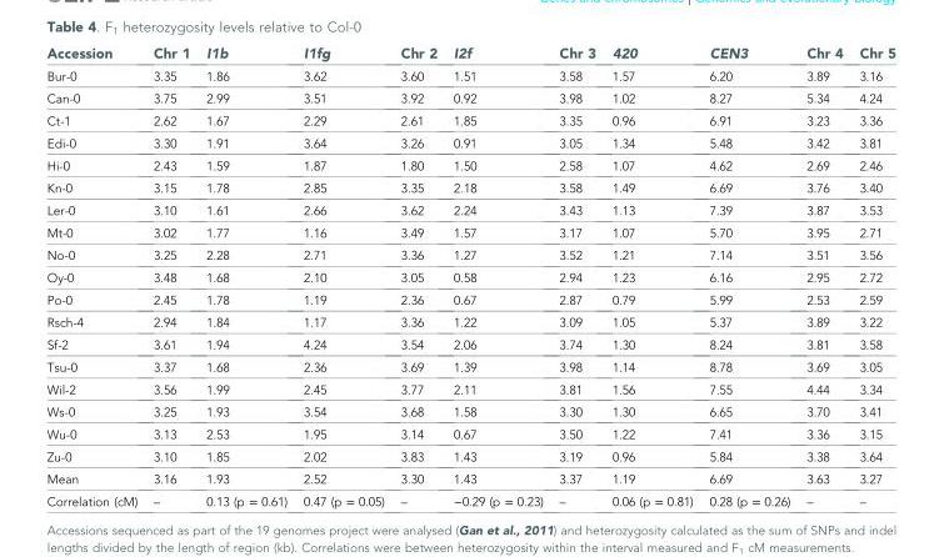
<table><thead><tr><td>Accession</td><td>Chr 1</td><td>I1b</td><td>I1fg</td><td>Chr 2</td><td>I2f</td><td>Chr 3</td><td>420</td><td>CEN3</td><td>Chr 4</td><td>Chr 5</td></tr></thead><tbody><tr><td>Bur-0</td><td>3.35</td><td>1.86</td><td>3.62</td><td>3.60</td><td>1.51</td><td>3.58</td><td>1.57</td><td>6.20</td><td>3.89</td><td>3.16</td></tr><tr><td>Can-0</td><td>3.75</td><td>2.99</td><td>3.51</td><td>3.92</td><td>0.92</td><td>3.98</td><td>1.02</td><td>8.27</td><td>5.34</td><td>4.24</td></tr><tr><td>Ct-1</td><td>2.62</td><td>1.67</td><td>2.29</td><td>2.61</td><td>1.85</td><td>3.35</td><td>0.96</td><td>6.91</td><td>3.23</td><td>3.36</td></tr><tr><td>Edi-0</td><td>3.30</td><td>1.91</td><td>3.64</td><td>3.26</td><td>0.91</td><td>3.05</td><td>1.34</td><td>5.48</td><td>3.42</td><td>3.81</td></tr><tr><td>Hi-0</td><td>2.43</td><td>1.59</td><td>1.87</td><td>1.80</td><td>1.50</td><td>2.58</td><td>1.07</td><td>4.62</td><td>2.69</td><td>2.46</td></tr><tr><td>Kn-0</td><td>3.15</td><td>1.78</td><td>2.85</td><td>3.35</td><td>2.18</td><td>3.58</td><td>1.49</td><td>6.69</td><td>3.76</td><td>3.40</td></tr><tr><td>Ler-0</td><td>3.10</td><td>1.61</td><td>2.66</td><td>3.62</td><td>2.24</td><td>3.43</td><td>1.13</td><td>7.39</td><td>3.87</td><td>3.53</td></tr><tr><td>Mt-0</td><td>3.02</td><td>1.77</td><td>1.16</td><td>3.49</td><td>1.57</td><td>3.17</td><td>1.07</td><td>5.70</td><td>3.95</td><td>2.71</td></tr><tr><td>No-0</td><td>3.25</td><td>2.28</td><td>2.71</td><td>3.36</td><td>1.27</td><td>3.52</td><td>1.21</td><td>7.14</td><td>3.51</td><td>3.56</td></tr><tr><td>Oy-0</td><td>3.48</td><td>1.68</td><td>2.10</td><td>3.05</td><td>0.58</td><td>2.94</td><td>1.23</td><td>6.16</td><td>2.95</td><td>2.72</td></tr><tr><td>Po-0</td><td>2.45</td><td>1.78</td><td>1.19</td><td>2.36</td><td>0.67</td><td>2.87</td><td>0.79</td><td>5.99</td><td>2.53</td><td>2.59</td></tr><tr><td>Rsch-4</td><td>2.94</td><td>1.84</td><td>1.17</td><td>3.36</td><td>1.22</td><td>3.09</td><td>1.05</td><td>5.37</td><td>3.89</td><td>3.22</td></tr><tr><td>Sf-2</td><td>3.61</td><td>1.94</td><td>4.24</td><td>3.54</td><td>2.06</td><td>3.74</td><td>1.30</td><td>8.24</td><td>3.81</td><td>3.58</td></tr><tr><td>Tsu-0</td><td>3.37</td><td>1.68</td><td>2.36</td><td>3.69</td><td>1.39</td><td>3.98</td><td>1.14</td><td>8.78</td><td>3.69</td><td>3.05</td></tr><tr><td>Wil-2</td><td>3.56</td><td>1.99</td><td>2.45</td><td>3.77</td><td>2.11</td><td>3.81</td><td>1.56</td><td>7.55</td><td>4.44</td><td>3.34</td></tr><tr><td>Ws-0</td><td>3.25</td><td>1.93</td><td>3.54</td><td>3.68</td><td>1.58</td><td>3.30</td><td>1.30</td><td>6.65</td><td>3.70</td><td>3.41</td></tr><tr><td>Wu-0</td><td>3.13</td><td>2.53</td><td>1.95</td><td>3.14</td><td>0.67</td><td>3.50</td><td>1.22</td><td>7.41</td><td>3.36</td><td>3.15</td></tr><tr><td>Zu-0</td><td>3.10</td><td>1.85</td><td>2.02</td><td>3.83</td><td>1.43</td><td>3.19</td><td>0.96</td><td>5.84</td><td>3.38</td><td>3.64</td></tr><tr><td>Mean</td><td>3.16</td><td>1.93</td><td>2.52</td><td>3.30</td><td>1.43</td><td>3.37</td><td>1.19</td><td>6.69</td><td>3.63</td><td>3.27</td></tr><tr><td>Correlation (cM)</td><td>–</td><td>0.13 (p = 0.61)</td><td>0.47 (p = 0.05)</td><td>–</td><td>−0.29 (p = 0.23)</td><td>–</td><td>0.06 (p = 0.81)</td><td>0.28 (p = 0.26)</td><td>–</td><td>–</td></tr></tbody></table>